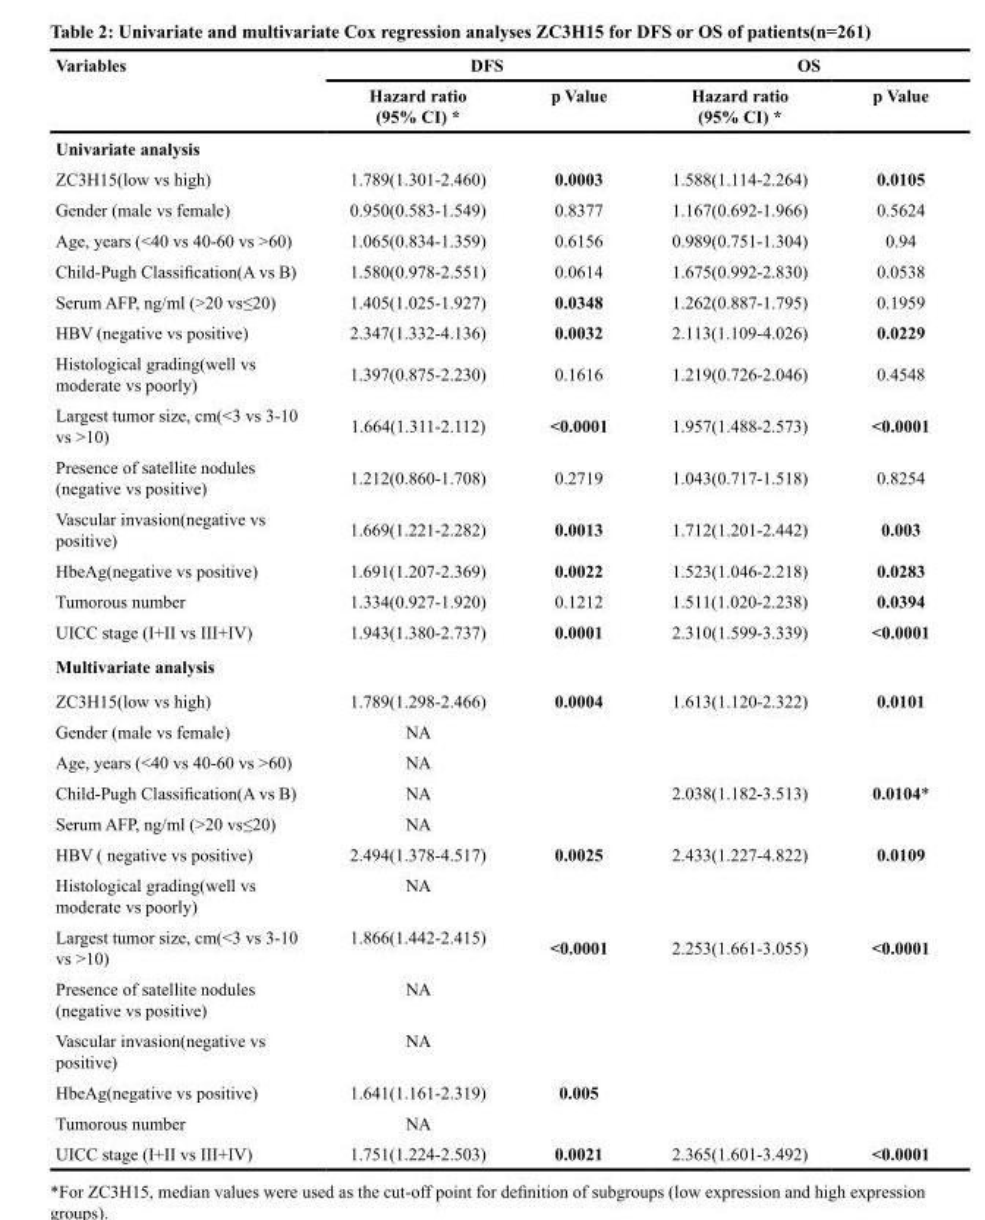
<table><thead><tr><td rowspan="2">Variables</td><td colspan="2">DFS</td><td colspan="2">OS</td></tr><tr><td>Hazard ratio (95% CI) *</td><td>p Value</td><td>Hazard ratio (95% CI) *</td><td>p Value</td></tr></thead><tbody><tr><td colspan="5">Univariate analysis</td></tr><tr><td>ZC3H15(low vs high)</td><td>1.789(1.301-2.460)</td><td>0.0003</td><td>1.588(1.114-2.264)</td><td>0.0105</td></tr><tr><td>Gender (male vs female)</td><td>0.950(0.583-1.549)</td><td>0.8377</td><td>1.167(0.692-1.966)</td><td>0.5624</td></tr><tr><td>Age, years (&lt;40 vs 40-60 vs &gt;60)</td><td>1.065(0.834-1.359)</td><td>0.6156</td><td>0.989(0.751-1.304)</td><td>0.94</td></tr><tr><td>Child-Pugh Classification(A vs B)</td><td>1.580(0.978-2.551)</td><td>0.0614</td><td>1.675(0.992-2.830)</td><td>0.0538</td></tr><tr><td>Serum AFP, ng/ml (&gt;20 vs≤20)</td><td>1.405(1.025-1.927)</td><td>0.0348</td><td>1.262(0.887-1.795)</td><td>0.1959</td></tr><tr><td>HBV (negative vs positive)</td><td>2.347(1.332-4.136)</td><td>0.0032</td><td>2.113(1.109-4.026)</td><td>0.0229</td></tr><tr><td>Histological grading(well vs moderate vs poorly)</td><td>1.397(0.875-2.230)</td><td>0.1616</td><td>1.219(0.726-2.046)</td><td>0.4548</td></tr><tr><td>Largest tumor size, cm(&lt;3 vs 3-10 vs &gt;10)</td><td>1.664(1.311-2.112)</td><td>&lt;0.0001</td><td>1.957(1.488-2.573)</td><td>&lt;0.0001</td></tr><tr><td>Presence of satellite nodules (negative vs positive)</td><td>1.212(0.860-1.708)</td><td>0.2719</td><td>1.043(0.717-1.518)</td><td>0.8254</td></tr><tr><td>Vascular invasion(negative vs positive)</td><td>1.669(1.221-2.282)</td><td>0.0013</td><td>1.712(1.201-2.442)</td><td>0.003</td></tr><tr><td>HbeAg(negative vs positive)</td><td>1.691(1.207-2.369)</td><td>0.0022</td><td>1.523(1.046-2.218)</td><td>0.0283</td></tr><tr><td>Tumorous number</td><td>1.334(0.927-1.920)</td><td>0.1212</td><td>1.511(1.020-2.238)</td><td>0.0394</td></tr><tr><td>UICC stage (I+II vs III+IV)</td><td>1.943(1.380-2.737)</td><td>0.0001</td><td>2.310(1.599-3.339)</td><td>&lt;0.0001</td></tr><tr><td colspan="5">Multivariate analysis</td></tr><tr><td>ZC3H15(low vs high)</td><td>1.789(1.298-2.466)</td><td>0.0004</td><td>1.613(1.120-2.322)</td><td>0.0101</td></tr><tr><td>Gender (male vs female)</td><td>NA</td><td></td><td></td><td></td></tr><tr><td>Age, years (&lt;40 vs 40-60 vs &gt;60)</td><td>NA</td><td></td><td></td><td></td></tr><tr><td>Child-Pugh Classification(A vs B)</td><td>NA</td><td></td><td>2.038(1.182-3.513)</td><td>0.0104*</td></tr><tr><td>Serum AFP, ng/ml (&gt;20 vs≤20)</td><td>NA</td><td></td><td></td><td></td></tr><tr><td>HBV ( negative vs positive)</td><td>2.494(1.378-4.517)</td><td>0.0025</td><td>2.433(1.227-4.822)</td><td>0.0109</td></tr><tr><td>Histological grading(well vs moderate vs poorly)</td><td>NA</td><td></td><td></td><td></td></tr><tr><td>Largest tumor size, cm(&lt;3 vs 3-10 vs &gt;10)</td><td>1.866(1.442-2.415)</td><td>&lt;0.0001</td><td>2.253(1.661-3.055)</td><td>&lt;0.0001</td></tr><tr><td>Presence of satellite nodules (negative vs positive)</td><td>NA</td><td></td><td></td><td></td></tr><tr><td>Vascular invasion(negative vs positive)</td><td>NA</td><td></td><td></td><td></td></tr><tr><td>HbeAg(negative vs positive)</td><td>1.641(1.161-2.319)</td><td>0.005</td><td></td><td></td></tr><tr><td>Tumorous number</td><td>NA</td><td></td><td></td><td></td></tr><tr><td>UICC stage (I+II vs III+IV)</td><td>1.751(1.224-2.503)</td><td>0.0021</td><td>2.365(1.601-3.492)</td><td>&lt;0.0001</td></tr></tbody></table>